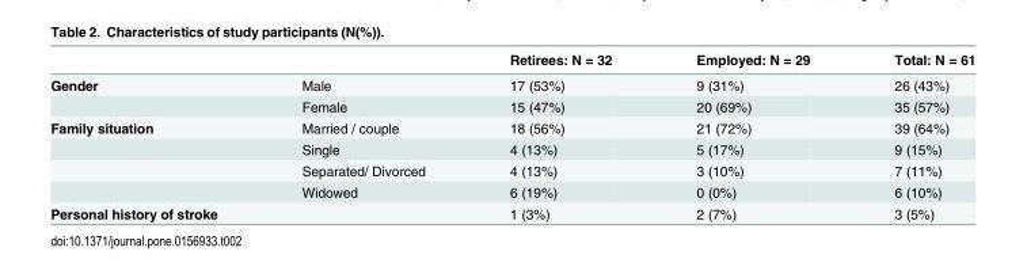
<table><thead><tr><td></td><td></td><td>Retirees: N = 32</td><td>Employed: N = 29</td><td>Total: N = 61</td></tr></thead><tbody><tr><td rowspan="2">Gender</td><td>Male</td><td>17 (53%)</td><td>9 (31%)</td><td>26 (43%)</td></tr><tr><td>Female</td><td>15 (47%)</td><td>20 (69%)</td><td>35 (57%)</td></tr><tr><td rowspan="4">Family situation</td><td>Married / couple</td><td>18 (56%)</td><td>21 (72%)</td><td>39 (64%)</td></tr><tr><td>Single</td><td>4 (13%)</td><td>5 (17%)</td><td>9 (15%)</td></tr><tr><td>Separated/ Divorced</td><td>4 (13%)</td><td>3 (10%)</td><td>7 (11%)</td></tr><tr><td>Widowed</td><td>6 (19%)</td><td>0 (0%)</td><td>6 (10%)</td></tr><tr><td>Personal history of stroke</td><td></td><td>1 (3%)</td><td>2 (7%)</td><td>3 (5%)</td></tr></tbody></table>